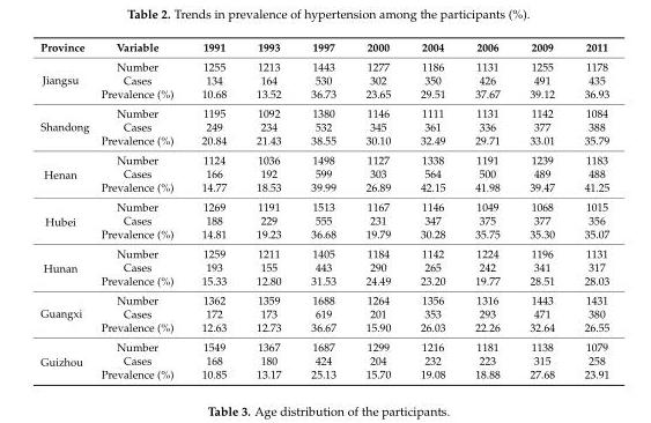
<table><thead><tr><td>Province</td><td>Variable</td><td>1991</td><td>1993</td><td>1997</td><td>2000</td><td>2004</td><td>2006</td><td>2009</td><td>2011</td></tr></thead><tbody><tr><td rowspan="3">Jiangsu</td><td>Number</td><td>1255</td><td>1213</td><td>1443</td><td>1277</td><td>1186</td><td>1131</td><td>1255</td><td>1178</td></tr><tr><td>Cases</td><td>134</td><td>164</td><td>530</td><td>302</td><td>350</td><td>426</td><td>491</td><td>435</td></tr><tr><td>Prevalence (%)</td><td>10.68</td><td>13.52</td><td>36.73</td><td>23.65</td><td>29.51</td><td>37.67</td><td>39.12</td><td>36.93</td></tr><tr><td rowspan="3">Shandong</td><td>Number</td><td>1195</td><td>1092</td><td>1380</td><td>1146</td><td>1111</td><td>1131</td><td>1142</td><td>1084</td></tr><tr><td>Cases</td><td>249</td><td>234</td><td>532</td><td>345</td><td>361</td><td>336</td><td>377</td><td>388</td></tr><tr><td>Prevalence (%)</td><td>20.84</td><td>21.43</td><td>38.55</td><td>30.10</td><td>32.49</td><td>29.71</td><td>33.01</td><td>35.79</td></tr><tr><td rowspan="3">Henan</td><td>Number</td><td>1124</td><td>1036</td><td>1498</td><td>1127</td><td>1338</td><td>1191</td><td>1239</td><td>1183</td></tr><tr><td>Cases</td><td>166</td><td>192</td><td>599</td><td>303</td><td>564</td><td>500</td><td>489</td><td>488</td></tr><tr><td>Prevalence (%)</td><td>14.77</td><td>18.53</td><td>39.99</td><td>26.89</td><td>42.15</td><td>41.98</td><td>39.47</td><td>41.25</td></tr><tr><td rowspan="3">Hubei</td><td>Number</td><td>1269</td><td>1191</td><td>1513</td><td>1167</td><td>1146</td><td>1049</td><td>1068</td><td>1015</td></tr><tr><td>Cases</td><td>188</td><td>229</td><td>555</td><td>231</td><td>347</td><td>375</td><td>377</td><td>356</td></tr><tr><td>Prevalence (%)</td><td>14.81</td><td>19.23</td><td>36.68</td><td>19.79</td><td>30.28</td><td>35.75</td><td>35.30</td><td>35.07</td></tr><tr><td rowspan="3">Hunan</td><td>Number</td><td>1259</td><td>1211</td><td>1405</td><td>1184</td><td>1142</td><td>1224</td><td>1196</td><td>1131</td></tr><tr><td>Cases</td><td>193</td><td>155</td><td>443</td><td>290</td><td>265</td><td>242</td><td>341</td><td>317</td></tr><tr><td>Prevalence (%)</td><td>15.33</td><td>12.80</td><td>31.53</td><td>24.49</td><td>23.20</td><td>19.77</td><td>28.51</td><td>28.03</td></tr><tr><td rowspan="3">Guangxi</td><td>Number</td><td>1362</td><td>1359</td><td>1688</td><td>1264</td><td>1356</td><td>1316</td><td>1443</td><td>1431</td></tr><tr><td>Cases</td><td>172</td><td>173</td><td>619</td><td>201</td><td>353</td><td>293</td><td>471</td><td>380</td></tr><tr><td>Prevalence (%)</td><td>12.63</td><td>12.73</td><td>36.67</td><td>15.90</td><td>26.03</td><td>22.26</td><td>32.64</td><td>26.55</td></tr><tr><td rowspan="3">Guizhou</td><td>Number</td><td>1549</td><td>1367</td><td>1687</td><td>1299</td><td>1216</td><td>1181</td><td>1138</td><td>1079</td></tr><tr><td>Cases</td><td>168</td><td>180</td><td>424</td><td>204</td><td>232</td><td>223</td><td>315</td><td>258</td></tr><tr><td>Prevalence (%)</td><td>10.85</td><td>13.17</td><td>25.13</td><td>15.70</td><td>19.08</td><td>18.88</td><td>27.68</td><td>23.91</td></tr></tbody></table>